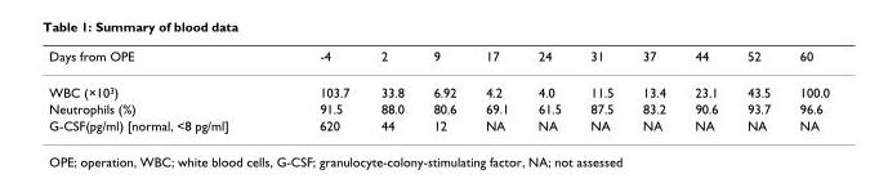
<table><thead><tr><td>Days from OPE</td><td>-4</td><td>2</td><td>9</td><td>17</td><td>24</td><td>31</td><td>37</td><td>44</td><td>52</td><td>60</td></tr></thead><tbody><tr><td>WBC (×10<sup>3</sup>)</td><td>103.7</td><td>33.8</td><td>6.92</td><td>4.2</td><td>4.0</td><td>11.5</td><td>13.4</td><td>23.1</td><td>43.5</td><td>100.0</td></tr><tr><td>Neutrophils (%)</td><td>91.5</td><td>88.0</td><td>80.6</td><td>69.1</td><td>61.5</td><td>87.5</td><td>83.2</td><td>90.6</td><td>93.7</td><td>96.6</td></tr><tr><td>G-CSF(pg/ml) [normal, &lt;8 pg/ml]</td><td>620</td><td>44</td><td>12</td><td>NA</td><td>NA</td><td>NA</td><td>NA</td><td>NA</td><td>NA</td><td>NA</td></tr></tbody></table>